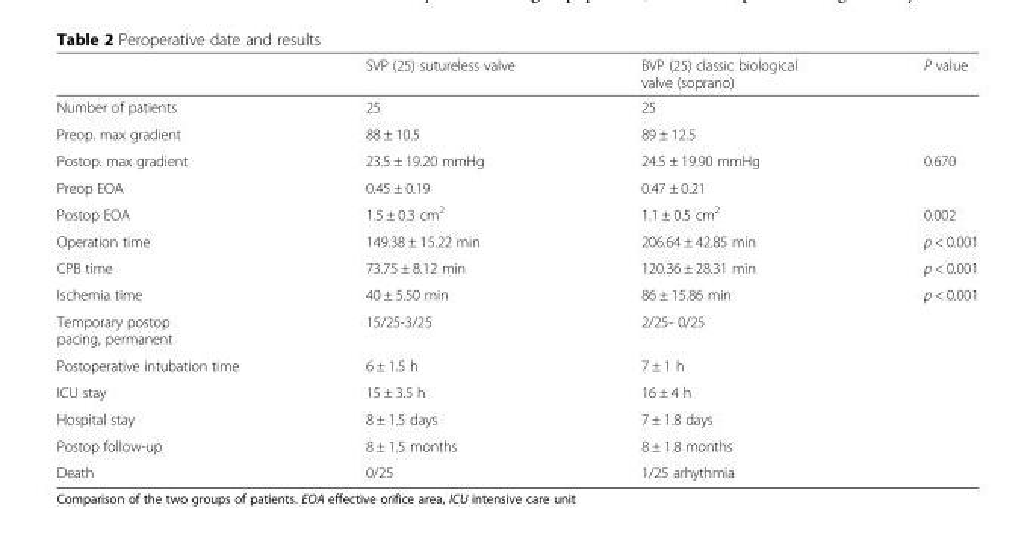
<table><thead><tr><td></td><td>SVP (25) sutureless valve</td><td>BVP (25) classic biological valve (soprano)</td><td>P value</td></tr></thead><tbody><tr><td>Number of patients</td><td>25</td><td>25</td><td></td></tr><tr><td>Preop. max gradient</td><td>88 ± 10.5</td><td>89 ± 12.5</td><td></td></tr><tr><td>Postop. max gradient</td><td>23.5 ± 19.20 mmHg</td><td>24.5 ± 19.90 mmHg</td><td>0.670</td></tr><tr><td>Preop EOA</td><td>0.45 ± 0.19</td><td>0.47 ± 0.21</td><td></td></tr><tr><td>Postop ΕΟΑ</td><td>1.5 ± 0.3 cm<sup>2</sup></td><td>1.1 ± 0.5 cm<sup>2</sup></td><td>0.002</td></tr><tr><td>Operation time</td><td>149.38 ± 15.22 min</td><td>206.64 ± 42.85 min</td><td>p &lt; 0.001</td></tr><tr><td>CPB time</td><td>73.75 ± 8.12 min</td><td>120.36 ± 28.31 min</td><td>p &lt; 0.001</td></tr><tr><td>Ischemia time</td><td>40 ± 5.50 min</td><td>86 ± 15.86 min</td><td>p &lt; 0.001</td></tr><tr><td>Temporary postop pacing, permanent</td><td>15/25-3/25</td><td>2/25- 0/25</td><td></td></tr><tr><td>Postoperative intubation time</td><td>6 ± 1.5 h</td><td>7 ± 1 h</td><td></td></tr><tr><td>ICU stay</td><td>15 ± 3.5 h</td><td>16 ± 4 h</td><td></td></tr><tr><td>Hospital stay</td><td>8 ± 1.5 days</td><td>7 ± 1.8 days</td><td></td></tr><tr><td>Postop follow-up</td><td>8 ± 1.5 months</td><td>8 ± 1.8 months</td><td></td></tr><tr><td>Death</td><td>0/25</td><td>1/25 arhythmia</td><td></td></tr></tbody></table>